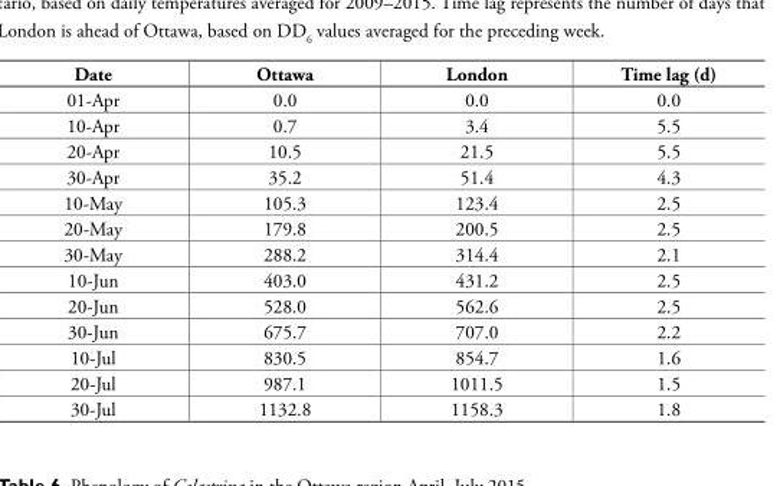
<table><thead><tr><td>Date</td><td>Ottawa</td><td>London</td><td>Time lag (d)</td></tr></thead><tbody><tr><td>01-Apr</td><td>0.0</td><td>0.0</td><td>0.0</td></tr><tr><td>10-Apr</td><td>0.7</td><td>3.4</td><td>5.5</td></tr><tr><td>20-Apr</td><td>10.5</td><td>21.5</td><td>5.5</td></tr><tr><td>30-Apr</td><td>35.2</td><td>51.4</td><td>4.3</td></tr><tr><td>10-May</td><td>105.3</td><td>123.4</td><td>2.5</td></tr><tr><td>20-May</td><td>179.8</td><td>200.5</td><td>2.5</td></tr><tr><td>30-May</td><td>288.2</td><td>314.4</td><td>2.1</td></tr><tr><td>10-Jun</td><td>403.0</td><td>431.2</td><td>2.5</td></tr><tr><td>20-Jun</td><td>528.0</td><td>562.6</td><td>2.5</td></tr><tr><td>30-Jun</td><td>675.7</td><td>707.0</td><td>2.2</td></tr><tr><td>10-Jul</td><td>830.5</td><td>854.7</td><td>1.6</td></tr><tr><td>20-Jul</td><td>987.1</td><td>1011.5</td><td>1.5</td></tr><tr><td>30-Jul</td><td>1132.8</td><td>1158.3</td><td>1.8</td></tr></tbody></table>